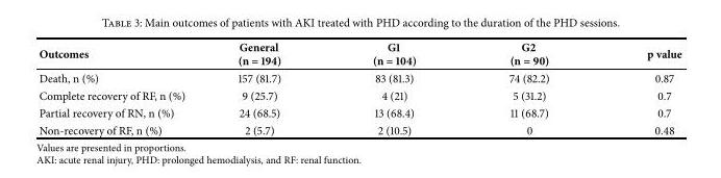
<table><thead><tr><td>Outcomes</td><td>General (n = 194)</td><td>G1 (n = 104)</td><td>G2 (n = 90)</td><td>p value</td></tr></thead><tbody><tr><td>Death, n (%)</td><td>157 (81.7)</td><td>83 (81.3)</td><td>74 (82.2)</td><td>0.87</td></tr><tr><td>Complete recovery of RF, n (%)</td><td>9 (25.7)</td><td>4 (21)</td><td>5 (31.2)</td><td>0.7</td></tr><tr><td>Partial recovery of RN, n (%)</td><td>24 (68.5)</td><td>13 (68.4)</td><td>11 (68.7)</td><td>0.7</td></tr><tr><td>Non-recovery of RF, n (%)</td><td>2 (5.7)</td><td>2 (10.5)</td><td>0</td><td>0.48</td></tr></tbody></table>